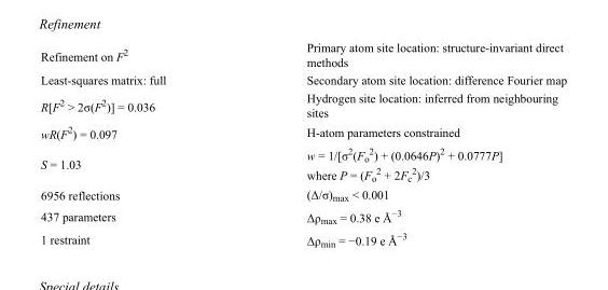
<table><tbody><tr><td>Refinement on F<sup>2</sup></td><td>Primary atom site location: structure-invariant direct methods</td></tr><tr><td>Least-squares matrix: full</td><td>Secondary atom site location: difference Fourier map</td></tr><tr><td>R[F<sup>2</sup> &gt; 2σ(F<sup>2</sup>)] = 0.036</td><td>Hydrogen site location: inferred from neighbouring sites</td></tr><tr><td>wR(F<sup>2</sup>) = 0.097</td><td>H-atom parameters constrained</td></tr><tr><td>S = 1.03</td><td>w = 1/[σ<sup>2</sup>(F<sub>o</sub> <sup>2</sup>) + (0.0646P)<sup>2</sup> + 0.0777P] where P = (F<sub>o</sub> <sup>2</sup> + 2F<sub>c</sub> <sup>2</sup>)/3</td></tr><tr><td>6956 reflections</td><td>(Δ/σ)<sub>max</sub> &lt; 0.001</td></tr><tr><td>437 parameters</td><td>Δρ<sub>max</sub> = 0.38 e Å<sup>−3</sup></td></tr><tr><td>1 restraint</td><td>Δρ<sub>min</sub> = −0.19 e Å<sup>−3</sup></td></tr></tbody></table>